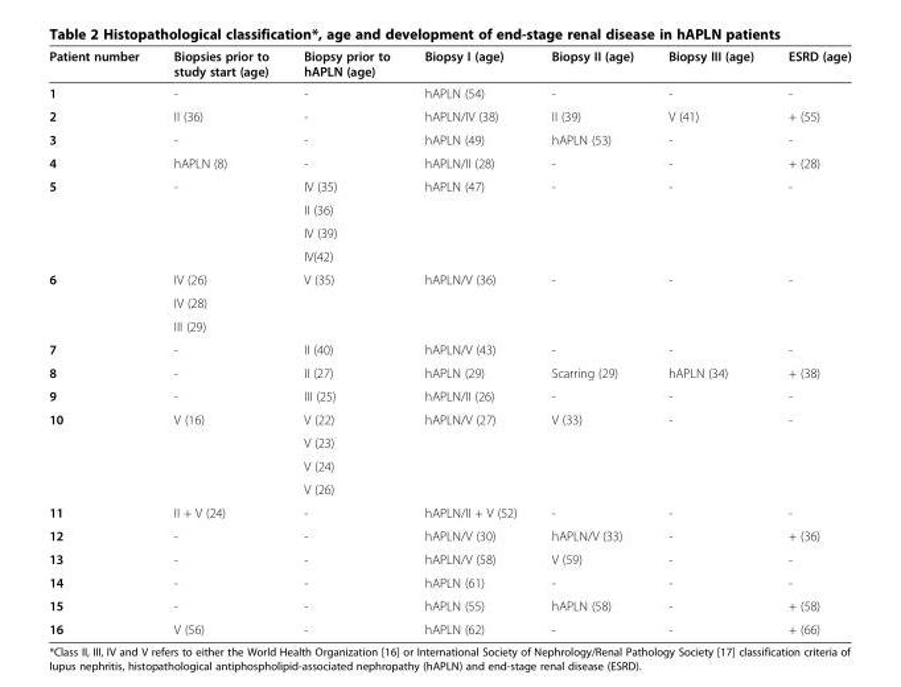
<table><thead><tr><td>Patient number</td><td>Biopsies prior to study start (age)</td><td>Biopsy prior to hAPLN (age)</td><td>Biopsy I (age)</td><td>Biopsy II (age)</td><td>Biopsy III (age)</td><td>ESRD (age)</td></tr></thead><tbody><tr><td>1</td><td>-</td><td>-</td><td>hAPLN (54)</td><td>-</td><td>-</td><td>-</td></tr><tr><td>2</td><td>II (36)</td><td>-</td><td>hAPLN/IV (38)</td><td>II (39)</td><td>V (41)</td><td>+ (55)</td></tr><tr><td>3</td><td>-</td><td>-</td><td>hAPLN (49)</td><td>hAPLN (53)</td><td>-</td><td>-</td></tr><tr><td>4</td><td>hAPLN (8)</td><td>-</td><td>hAPLN/II (28)</td><td>-</td><td>-</td><td>+ (28)</td></tr><tr><td rowspan="4">5</td><td rowspan="4">-</td><td>IV (35)</td><td rowspan="4">hAPLN (47)</td><td rowspan="4">-</td><td rowspan="4">-</td><td rowspan="4">-</td></tr><tr><td>II (36)</td></tr><tr><td>IV (39)</td></tr><tr><td>IV(42)</td></tr><tr><td rowspan="3">6</td><td>IV (26)</td><td rowspan="3">V (35)</td><td rowspan="3">hAPLN/V (36)</td><td rowspan="3">-</td><td rowspan="3">-</td><td rowspan="3">-</td></tr><tr><td>IV (28)</td></tr><tr><td>III (29)</td></tr><tr><td>7</td><td>-</td><td>II (40)</td><td>hAPLN/V (43)</td><td>-</td><td>-</td><td>-</td></tr><tr><td>8</td><td>-</td><td>II (27)</td><td>hAPLN (29)</td><td>Scarring (29)</td><td>hAPLN (34)</td><td>+ (38)</td></tr><tr><td>9</td><td>-</td><td>III (25)</td><td>hAPLN/II (26)</td><td>-</td><td>-</td><td>-</td></tr><tr><td rowspan="4">10</td><td rowspan="4">V (16)</td><td>V (22)</td><td rowspan="4">hAPLN/V (27)</td><td rowspan="4">V (33)</td><td rowspan="4">-</td><td rowspan="4">-</td></tr><tr><td>V (23)</td></tr><tr><td>V (24)</td></tr><tr><td>V (26)</td></tr><tr><td>11</td><td>II + V (24)</td><td>-</td><td>hAPLN/II + V (52)</td><td>-</td><td>-</td><td>-</td></tr><tr><td>12</td><td>-</td><td>-</td><td>hAPLN/V (30)</td><td>hAPLN/V (33)</td><td>-</td><td>+ (36)</td></tr><tr><td>13</td><td>-</td><td>-</td><td>hAPLN/V (58)</td><td>V (59)</td><td>-</td><td>-</td></tr><tr><td>14</td><td>-</td><td>-</td><td>hAPLN (61)</td><td>-</td><td>-</td><td>-</td></tr><tr><td>15</td><td>-</td><td>-</td><td>hAPLN (55)</td><td>hAPLN (58)</td><td>-</td><td>+ (58)</td></tr><tr><td>16</td><td>V (56)</td><td>-</td><td>hAPLN (62)</td><td>-</td><td>-</td><td>+ (66)</td></tr></tbody></table>